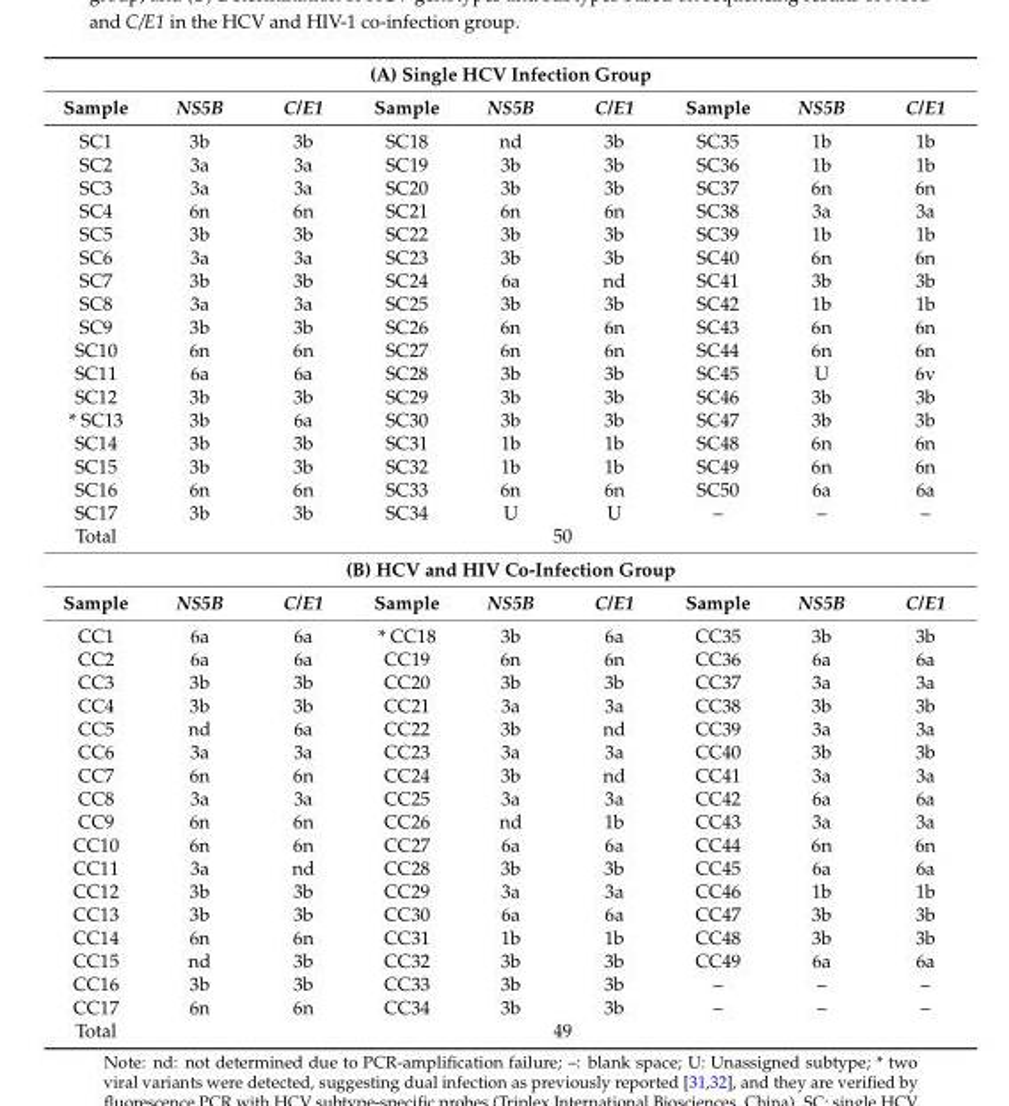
<table><thead><tr><td colspan="9">(A) Single HCV Infection Group</td></tr><tr><td>Sample</td><td>NS5B</td><td>C/E1</td><td>Sample</td><td>NS5B</td><td>C/E1</td><td>Sample</td><td>NS5B</td><td>C/E1</td></tr></thead><tbody><tr><td>SC1</td><td>3b</td><td>3b</td><td>SC18</td><td>nd</td><td>3b</td><td>SC35</td><td>1b</td><td>1b</td></tr><tr><td>SC2</td><td>3a</td><td>3a</td><td>SC19</td><td>3b</td><td>3b</td><td>SC36</td><td>1b</td><td>1b</td></tr><tr><td>SC3</td><td>3a</td><td>3a</td><td>SC20</td><td>3b</td><td>3b</td><td>SC37</td><td>6n</td><td>6n</td></tr><tr><td>SC4</td><td>6n</td><td>6n</td><td>SC21</td><td>6n</td><td>6n</td><td>SC38</td><td>3a</td><td>3a</td></tr><tr><td>SC5</td><td>3b</td><td>3b</td><td>SC22</td><td>3b</td><td>3b</td><td>SC39</td><td>1b</td><td>1b</td></tr><tr><td>SC6</td><td>3a</td><td>3a</td><td>SC23</td><td>3b</td><td>3b</td><td>SC40</td><td>6n</td><td>6n</td></tr><tr><td>SC7</td><td>3b</td><td>3b</td><td>SC24</td><td>6a</td><td>nd</td><td>SC41</td><td>3b</td><td>3b</td></tr><tr><td>SC8</td><td>3a</td><td>3a</td><td>SC25</td><td>3b</td><td>3b</td><td>SC42</td><td>1b</td><td>1b</td></tr><tr><td>SC9</td><td>3b</td><td>3b</td><td>SC26</td><td>6n</td><td>6n</td><td>SC43</td><td>6n</td><td>6n</td></tr><tr><td>SC10</td><td>6n</td><td>6n</td><td>SC27</td><td>6n</td><td>6n</td><td>SC44</td><td>6n</td><td>6n</td></tr><tr><td>SC11</td><td>6a</td><td>6a</td><td>SC28</td><td>3b</td><td>3b</td><td>SC45</td><td>U</td><td>6v</td></tr><tr><td>SC12</td><td>3b</td><td>3b</td><td>SC29</td><td>3b</td><td>3b</td><td>SC46</td><td>3b</td><td>3b</td></tr><tr><td>* SC13</td><td>3b</td><td>6a</td><td>SC30</td><td>3b</td><td>3b</td><td>SC47</td><td>3b</td><td>3b</td></tr><tr><td>SC14</td><td>3b</td><td>3b</td><td>SC31</td><td>1b</td><td>1b</td><td>SC48</td><td>6n</td><td>6n</td></tr><tr><td>SC15</td><td>3b</td><td>3b</td><td>SC32</td><td>1b</td><td>1b</td><td>SC49</td><td>6n</td><td>6n</td></tr><tr><td>SC16</td><td>6n</td><td>6n</td><td>SC33</td><td>6n</td><td>6n</td><td>SC50</td><td>6a</td><td>6a</td></tr><tr><td>SC17</td><td>3b</td><td>3b</td><td>SC34</td><td>U</td><td>U</td><td>–</td><td>–</td><td>–</td></tr><tr><td>Total</td><td colspan="8">50</td></tr><tr><td colspan="9">(B) HCV and HIV Co-Infection Group</td></tr><tr><td>Sample</td><td>NS5B</td><td>C/E1</td><td>Sample</td><td>NS5B</td><td>C/E1</td><td>Sample</td><td>NS5B</td><td>C/E1</td></tr><tr><td>CC1</td><td>6a</td><td>6a</td><td>* CC18</td><td>3b</td><td>6a</td><td>CC35</td><td>3b</td><td>3b</td></tr><tr><td>CC2</td><td>6a</td><td>6a</td><td>CC19</td><td>6n</td><td>6n</td><td>CC36</td><td>6a</td><td>6a</td></tr><tr><td>CC3</td><td>3b</td><td>3b</td><td>CC20</td><td>3b</td><td>3b</td><td>CC37</td><td>3a</td><td>3a</td></tr><tr><td>CC4</td><td>3b</td><td>3b</td><td>CC21</td><td>3a</td><td>3a</td><td>CC38</td><td>3b</td><td>3b</td></tr><tr><td>CC5</td><td>nd</td><td>6a</td><td>CC22</td><td>3b</td><td>nd</td><td>CC39</td><td>3a</td><td>3a</td></tr><tr><td>CC6</td><td>3a</td><td>3a</td><td>CC23</td><td>3a</td><td>3a</td><td>CC40</td><td>3b</td><td>3b</td></tr><tr><td>CC7</td><td>6n</td><td>6n</td><td>CC24</td><td>3b</td><td>nd</td><td>CC41</td><td>3a</td><td>3a</td></tr><tr><td>CC8</td><td>3a</td><td>3a</td><td>CC25</td><td>3a</td><td>3a</td><td>CC42</td><td>6a</td><td>6a</td></tr><tr><td>CC9</td><td>6n</td><td>6n</td><td>CC26</td><td>nd</td><td>1b</td><td>CC43</td><td>3a</td><td>3a</td></tr><tr><td>CC10</td><td>6n</td><td>6n</td><td>CC27</td><td>6a</td><td>6a</td><td>CC44</td><td>6n</td><td>6n</td></tr><tr><td>CC11</td><td>3a</td><td>nd</td><td>CC28</td><td>3b</td><td>3b</td><td>CC45</td><td>6a</td><td>6a</td></tr><tr><td>CC12</td><td>3b</td><td>3b</td><td>CC29</td><td>3a</td><td>3a</td><td>CC46</td><td>1b</td><td>1b</td></tr><tr><td>CC13</td><td>3b</td><td>3b</td><td>CC30</td><td>6a</td><td>6a</td><td>CC47</td><td>3b</td><td>3b</td></tr><tr><td>CC14</td><td>6n</td><td>6n</td><td>CC31</td><td>1b</td><td>1b</td><td>CC48</td><td>3b</td><td>3b</td></tr><tr><td>CC15</td><td>nd</td><td>3b</td><td>CC32</td><td>3b</td><td>3b</td><td>CC49</td><td>6a</td><td>6a</td></tr><tr><td>CC16</td><td>3b</td><td>3b</td><td>CC33</td><td>3b</td><td>3b</td><td>–</td><td>–</td><td>–</td></tr><tr><td>CC17</td><td>6n</td><td>6n</td><td>CC34</td><td>3b</td><td>3b</td><td>–</td><td>–</td><td>–</td></tr><tr><td>Total</td><td colspan="8">49</td></tr></tbody></table>